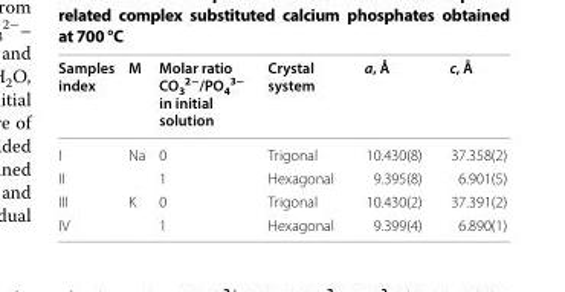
<table><thead><tr><td>Samples index</td><td>M</td><td>Molar ratio CO<sub>3</sub> <sup>2−</sup>/PO<sub>4</sub> <sup>3−</sup> in initial solution</td><td>Crystal system</td><td>a, Å</td><td>c, Å</td></tr></thead><tbody><tr><td>I</td><td rowspan="2">Na</td><td>0</td><td>Trigonal</td><td>10.430(8)</td><td>37.358(2)</td></tr><tr><td>II</td><td>1</td><td>Hexagonal</td><td>9.395(8)</td><td>6.901(5)</td></tr><tr><td>III</td><td rowspan="2">K</td><td>0</td><td>Trigonal</td><td>10.430(2)</td><td>37.391(2)</td></tr><tr><td>IV</td><td>1</td><td>Hexagonal</td><td>9.399(4)</td><td>6.890(1)</td></tr></tbody></table>